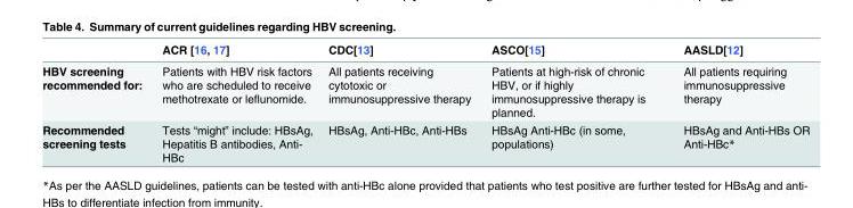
<table><thead><tr><td></td><td>ACR [16, 17]</td><td>CDC[13]</td><td>ASCO[15]</td><td>AASLD[12]</td></tr></thead><tbody><tr><td>HBV screening recommended for:</td><td>Patients with HBV risk factors who are scheduled to receive methotrexate or leflunomide.</td><td>All patients receiving cytotoxic or immunosuppressive therapy</td><td>Patients at high-risk of chronic HBV, or if highly immunosuppressive therapy is planned.</td><td>All patients requiring immunosuppressive therapy</td></tr><tr><td>Recommended screening tests</td><td>Tests “might” include: HBsAg, Hepatitis B antibodies, Anti- HBc</td><td>HBsAg, Anti-HBc, Anti-HBs</td><td>HBsAg Anti-HBc (in some, populations)</td><td>HBsAg and Anti-HBs OR Anti-HBc*</td></tr></tbody></table>